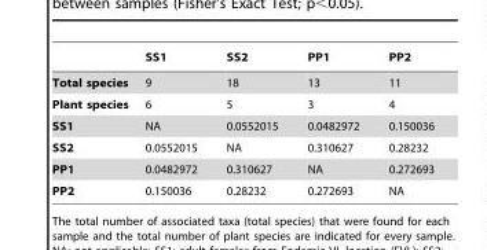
<table><thead><tr><td></td><td>SS1</td><td>SS2</td><td>PP1</td><td>PP2</td></tr></thead><tbody><tr><td>Total species</td><td>9</td><td>18</td><td>13</td><td>11</td></tr><tr><td>Plant species</td><td>6</td><td>5</td><td>3</td><td>4</td></tr><tr><td>SS1</td><td>NA</td><td>0.0552015</td><td>0.0482972</td><td>0.150036</td></tr><tr><td>SS2</td><td>0.0552015</td><td>NA</td><td>0.310627</td><td>0.28232</td></tr><tr><td>PP1</td><td>0.0482972</td><td>0.310627</td><td>NA</td><td>0.272693</td></tr><tr><td>PP2</td><td>0.150036</td><td>0.28232</td><td>0.272693</td><td>NA</td></tr></tbody></table>